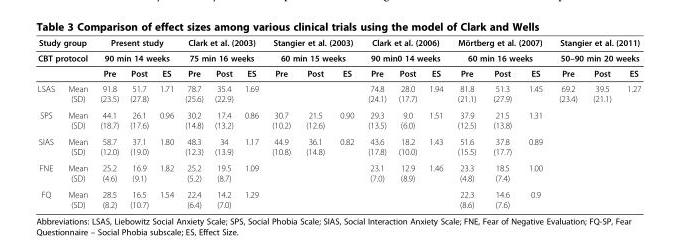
<table><thead><tr><td rowspan="2" colspan="2">Study group CBT protocol</td><td rowspan="2" colspan="3">Present study 90 min 14 weeks</td><td rowspan="2" colspan="3">Clark et al. (2003) 75 min 16 weeks</td><td rowspan="2" colspan="3">Stangier et al. (2003) 60 min 15 weeks</td><td rowspan="2" colspan="3">Clark et al. (2006) 90 min0 14 weeks</td><td rowspan="2" colspan="3">Mörtberg et al. (2007) 60 min 16 weeks</td><td rowspan="2" colspan="3">Stangier et al. (2011) 50–90 min 20 weeks</td></tr><tr></tr><tr><td></td><td></td><td>Pre</td><td>Post</td><td>ES</td><td>Pre</td><td>Post</td><td>ES</td><td>Pre</td><td>Post</td><td>ES</td><td>Pre</td><td>Post</td><td>ES</td><td>Pre</td><td>Post</td><td>ES</td><td>Pre</td><td>Post</td><td>ES</td></tr></thead><tbody><tr><td>LSAS</td><td>Mean (SD)</td><td>91.8 (23.5)</td><td>51.7 (27.8)</td><td>1.71</td><td>78.7 (25.6)</td><td>35.4 (22.9)</td><td>1.69</td><td></td><td></td><td></td><td>74.8 (24.1)</td><td>28.0 (17.7)</td><td>1.94</td><td>81.8 (21.1)</td><td>51.3 (27.9)</td><td>1.45</td><td>69.2 (23.4)</td><td>39.5 (21.1)</td><td>1.27</td></tr><tr><td>SPS</td><td>Mean (SD)</td><td>44.1 (18.7)</td><td>26.1 (17.6)</td><td>0.96</td><td>30.2 (14.8)</td><td>17.4 (13.2)</td><td>0.86</td><td>30.7 (10.2)</td><td>21.5 (12.6)</td><td>0.90</td><td>29.3 (13.5)</td><td>9.0 (6.0)</td><td>1.51</td><td>37.9 (12.5)</td><td>21.5 (13.8)</td><td>1.31</td><td></td><td></td><td></td></tr><tr><td>SIAS</td><td>Mean (SD)</td><td>58.7 (12.0)</td><td>37.1 (19.0)</td><td>1.80</td><td>48.3 (12.3)</td><td>34 (13.9)</td><td>1.17</td><td>44.9 (10.8)</td><td>36.1 (14.8)</td><td>0.82</td><td>43.6 (17.8)</td><td>18.2 (10.0)</td><td>1.43</td><td>51.6 (15.5)</td><td>37.8 (17.7)</td><td>0.89</td><td></td><td></td><td></td></tr><tr><td>FNE</td><td>Mean (SD)</td><td>25.2 (4.6)</td><td>16.9 (9.1)</td><td>1.82</td><td>25.2 (5.2)</td><td>19.5 (8.7)</td><td>1.09</td><td></td><td></td><td></td><td>23.1 (7.0)</td><td>12.9 (8.9)</td><td>1.46</td><td>23.3 (4.8)</td><td>18.5 (7.4)</td><td>1.00</td><td></td><td></td><td></td></tr><tr><td>FQ</td><td>Mean (SD)</td><td>28.5 (8.2)</td><td>16.5 (10.7)</td><td>1.54</td><td>22.4 (6.4)</td><td>14.2 (7.0)</td><td>1.29</td><td></td><td></td><td></td><td></td><td></td><td></td><td>22.3 (8.6)</td><td>14.6 (7.6)</td><td>0.9</td><td></td><td></td><td></td></tr></tbody></table>